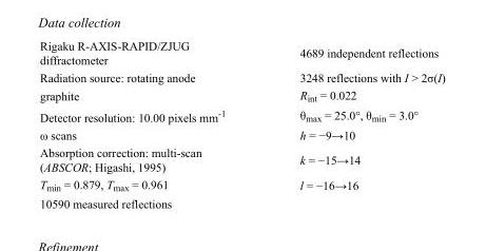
<table><tbody><tr><td>Rigaku R-AXIS-RAPID/ZJUG diffractometer</td><td>4689 independent reflections</td></tr><tr><td>Radiation source: rotating anode</td><td>3248 reflections with I &gt; 2σ(I)</td></tr><tr><td>graphite</td><td>R<sub>int</sub> = 0.022</td></tr><tr><td>Detector resolution: 10.00 pixels mm<sup>-1</sup></td><td>θ<sub>max</sub> = 25.0°, θ<sub>min</sub> = 3.0°</td></tr><tr><td>ω scans</td><td>h = −9→10</td></tr><tr><td>Absorption correction: multi-scan (ABSCOR; Higashi, 1995)</td><td>k = −15→14</td></tr><tr><td>T<sub>min</sub> = 0.879, T<sub>max</sub> = 0.961</td><td>l = −16→16</td></tr><tr><td>10590 measured reflections</td><td></td></tr></tbody></table>